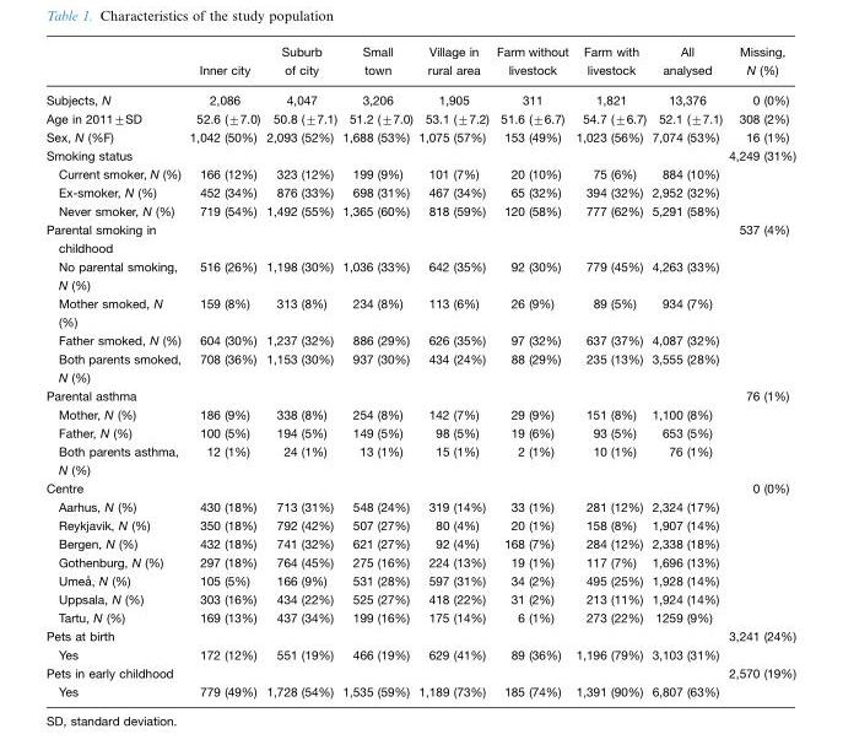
<table><thead><tr><td></td><td>Inner city</td><td>Suburb of city</td><td>Small town</td><td>Village in rural area</td><td>Farm without livestock</td><td>Farm with livestock</td><td>All analysed</td><td>Missing, N (%)</td></tr></thead><tbody><tr><td>Subjects, N</td><td>2,086</td><td>4,047</td><td>3,206</td><td>1,905</td><td>311</td><td>1,821</td><td>13,376</td><td>0 (0%)</td></tr><tr><td>Age in 2011±SD</td><td>52.6 (±7.0)</td><td>50.8 (±7.1)</td><td>51.2 (±7.0)</td><td>53.1 (±7.2)</td><td>51.6 (±6.7)</td><td>54.7 (±6.7)</td><td>52.1 (±7.1)</td><td>308 (2%)</td></tr><tr><td>Sex, N (%F)</td><td>1,042 (50%)</td><td>2,093 (52%)</td><td>1,688 (53%)</td><td>1,075 (57%)</td><td>153 (49%)</td><td>1,023 (56%)</td><td>7,074 (53%)</td><td>16 (1%)</td></tr><tr><td>Smoking status</td><td></td><td></td><td></td><td></td><td></td><td></td><td></td><td>4,249 (31%)</td></tr><tr><td>Current smoker, N (%)</td><td>166 (12%)</td><td>323 (12%)</td><td>199 (9%)</td><td>101 (7%)</td><td>20 (10%)</td><td>75 (6%)</td><td>884 (10%)</td><td></td></tr><tr><td>Ex-smoker, N (%)</td><td>452 (34%)</td><td>876 (33%)</td><td>698 (31%)</td><td>467 (34%)</td><td>65 (32%)</td><td>394 (32%)</td><td>2,952 (32%)</td><td></td></tr><tr><td>Never smoker, N (%)</td><td>719 (54%)</td><td>1,492 (55%)</td><td>1,365 (60%)</td><td>818 (59%)</td><td>120 (58%)</td><td>777 (62%)</td><td>5,291 (58%)</td><td></td></tr><tr><td>Parental smoking in childhood</td><td></td><td></td><td></td><td></td><td></td><td></td><td></td><td>537 (4%)</td></tr><tr><td>No parental smoking, N (%)</td><td>516 (26%)</td><td>1,198 (30%)</td><td>1,036 (33%)</td><td>642 (35%)</td><td>92 (30%)</td><td>779 (45%)</td><td>4,263 (33%)</td><td></td></tr><tr><td>Mother smoked, N (%)</td><td>159 (8%)</td><td>313 (8%)</td><td>234 (8%)</td><td>113 (6%)</td><td>26 (9%)</td><td>89 (5%)</td><td>934 (7%)</td><td></td></tr><tr><td>Father smoked, N (%)</td><td>604 (30%)</td><td>1,237 (32%)</td><td>886 (29%)</td><td>626 (35%)</td><td>97 (32%)</td><td>637 (37%)</td><td>4,087 (32%)</td><td></td></tr><tr><td>Both parents smoked, N (%)</td><td>708 (36%)</td><td>1,153 (30%)</td><td>937 (30%)</td><td>434 (24%)</td><td>88 (29%)</td><td>235 (13%)</td><td>3,555 (28%)</td><td></td></tr><tr><td>Parental asthma</td><td></td><td></td><td></td><td></td><td></td><td></td><td></td><td>76 (1%)</td></tr><tr><td>Mother, N (%)</td><td>186 (9%)</td><td>338 (8%)</td><td>254 (8%)</td><td>142 (7%)</td><td>29 (9%)</td><td>151 (8%)</td><td>1,100 (8%)</td><td></td></tr><tr><td>Father, N (%)</td><td>100 (5%)</td><td>194 (5%)</td><td>149 (5%)</td><td>98 (5%)</td><td>19 (6%)</td><td>93 (5%)</td><td>653 (5%)</td><td></td></tr><tr><td>Both parents asthma, N (%)</td><td>12 (1%)</td><td>24 (1%)</td><td>13 (1%)</td><td>15 (1%)</td><td>2 (1%)</td><td>10 (1%)</td><td>76 (1%)</td><td></td></tr><tr><td>Centre</td><td></td><td></td><td></td><td></td><td></td><td></td><td></td><td>0 (0%)</td></tr><tr><td>Aarhus, N (%)</td><td>430 (18%)</td><td>713 (31%)</td><td>548 (24%)</td><td>319 (14%)</td><td>33 (1%)</td><td>281 (12%)</td><td>2,324 (17%)</td><td></td></tr><tr><td>Reykjavik, N (%)</td><td>350 (18%)</td><td>792 (42%)</td><td>507 (27%)</td><td>80 (4%)</td><td>20 (1%)</td><td>158 (8%)</td><td>1,907 (14%)</td><td></td></tr><tr><td>Bergen, N (%)</td><td>432 (18%)</td><td>741 (32%)</td><td>621 (27%)</td><td>92 (4%)</td><td>168 (7%)</td><td>284 (12%)</td><td>2,338 (18%)</td><td></td></tr><tr><td>Gothenburg, N (%)</td><td>297 (18%)</td><td>764 (45%)</td><td>275 (16%)</td><td>224 (13%)</td><td>19 (1%)</td><td>117 (7%)</td><td>1,696 (13%)</td><td></td></tr><tr><td>Umea˚ , N (%)</td><td>105 (5%)</td><td>166 (9%)</td><td>531 (28%)</td><td>597 (31%)</td><td>34 (2%)</td><td>495 (25%)</td><td>1,928 (14%)</td><td></td></tr><tr><td>Uppsala, N (%)</td><td>303 (16%)</td><td>434 (22%)</td><td>525 (27%)</td><td>418 (22%)</td><td>31 (2%)</td><td>213 (11%)</td><td>1,924 (14%)</td><td></td></tr><tr><td>Tartu, N (%)</td><td>169 (13%)</td><td>437 (34%)</td><td>199 (16%)</td><td>175 (14%)</td><td>6 (1%)</td><td>273 (22%)</td><td>1259 (9%)</td><td></td></tr><tr><td>Pets at birth</td><td></td><td></td><td></td><td></td><td></td><td></td><td></td><td>3,241 (24%)</td></tr><tr><td>Yes</td><td>172 (12%)</td><td>551 (19%)</td><td>466 (19%)</td><td>629 (41%)</td><td>89 (36%)</td><td>1,196 (79%)</td><td>3,103 (31%)</td><td></td></tr><tr><td>Pets in early childhood</td><td></td><td></td><td></td><td></td><td></td><td></td><td></td><td>2,570 (19%)</td></tr><tr><td>Yes</td><td>779 (49%)</td><td>1,728 (54%)</td><td>1,535 (59%)</td><td>1,189 (73%)</td><td>185 (74%)</td><td>1,391 (90%)</td><td>6,807 (63%)</td><td></td></tr></tbody></table>